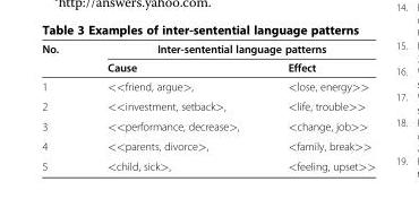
<table><thead><tr><td rowspan="2">No.</td><td colspan="2">Inter-sentential language patterns</td></tr><tr><td>Cause</td><td>Effect</td></tr></thead><tbody><tr><td>1</td><td>&lt;&lt;friend, argue&gt;,</td><td>&lt;lose, energy&gt;&gt;</td></tr><tr><td>2</td><td>&lt;&lt;investment, setback&gt;,</td><td>&lt;life, trouble&gt;&gt;</td></tr><tr><td>3</td><td>&lt;&lt;performance, decrease&gt;,</td><td>&lt;change, job&gt;&gt;</td></tr><tr><td>4</td><td>&lt;&lt;parents, divorce&gt;,</td><td>&lt;family, break&gt;&gt;</td></tr><tr><td>5</td><td>&lt;child, sick&gt;,</td><td>&lt;feeling, upset&gt;&gt;</td></tr></tbody></table>